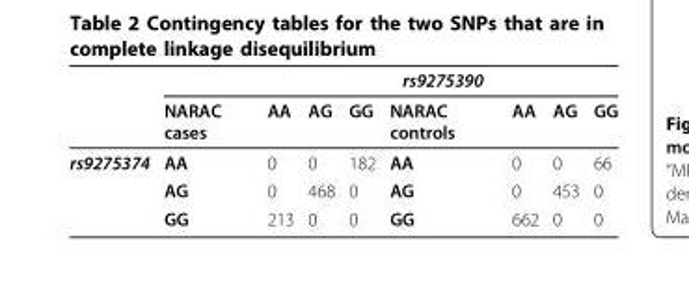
<table><thead><tr><td rowspan="2"></td><td rowspan="2">NARAC cases</td><td colspan="7">rs9275390</td></tr><tr><td>AA</td><td>AG</td><td>GG</td><td>NARAC controls</td><td>AA</td><td>AG</td><td>GG</td></tr></thead><tbody><tr><td rowspan="3">rs9275374</td><td>AA</td><td>0</td><td>0</td><td>182</td><td>AA</td><td>0</td><td>0</td><td>66</td></tr><tr><td>AG</td><td>0</td><td>468</td><td>0</td><td>AG</td><td>0</td><td>453</td><td>0</td></tr><tr><td>GG</td><td>213</td><td>0</td><td>0</td><td>GG</td><td>662</td><td>0</td><td>0</td></tr></tbody></table>